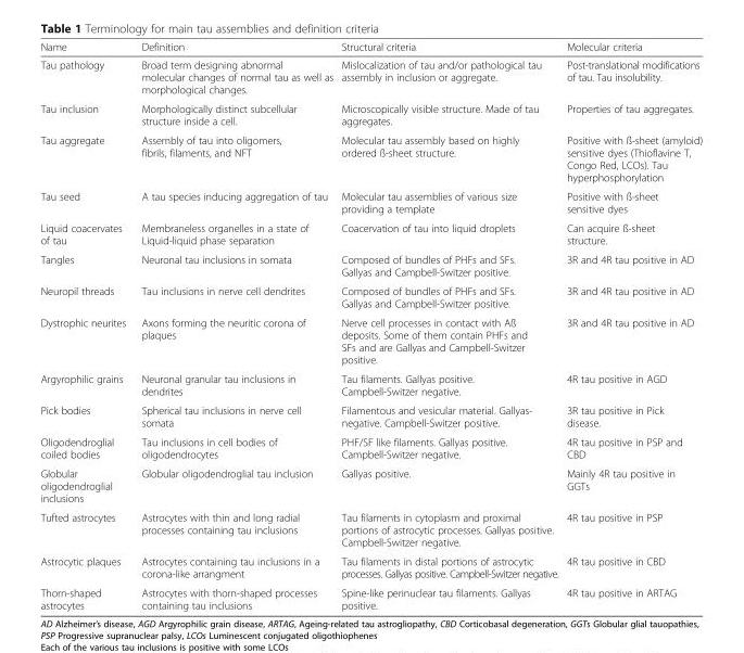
<table><thead><tr><td>Name</td><td>Definition</td><td>Structural criteria</td><td>Molecular criteria</td></tr></thead><tbody><tr><td>Tau pathology</td><td>Broad term designing abnormal molecular changes of normal tau as well as morphological changes.</td><td>Mislocalization of tau and/or pathological tau assembly in inclusion or aggregate.</td><td>Post-translational modifications of tau. Tau insolubility.</td></tr><tr><td>Tau inclusion</td><td>Morphologically distinct subcellular structure inside a cell.</td><td>Microscopically visible structure. Made of tau aggregates.</td><td>Properties of tau aggregates.</td></tr><tr><td>Tau aggregate</td><td>Assembly of tau into oligomers, fibrils, filaments, and NFT</td><td>Molecular tau assembly based on highly ordered ß-sheet structure.</td><td>Positive with ß-sheet (amyloid) sensitive dyes (Thioflavine T, Congo Red, LCOs). Tau hyperphosphorylation</td></tr><tr><td>Tau seed</td><td>A tau species inducing aggregation of tau</td><td>Molecular tau assemblies of various size providing a template</td><td>Positive with ß-sheet sensitive dyes</td></tr><tr><td>Liquid coacervates of tau</td><td>Membraneless organelles in a state of Liquid-liquid phase separation</td><td>Coacervation of tau into liquid droplets</td><td>Can acquire ß-sheet structure.</td></tr><tr><td>Tangles</td><td>Neuronal tau inclusions in somata</td><td>Composed of bundles of PHFs and SFs. Gallyas and Campbell-Switzer positive.</td><td>3R and 4R tau positive in AD</td></tr><tr><td>Neuropil threads</td><td>Tau inclusions in nerve cell dendrites</td><td>Composed of bundles of PHFs and SFs. Gallyas and Campbell-Switzer positive.</td><td>3R and 4R tau positive in AD</td></tr><tr><td>Dystrophic neurites</td><td>Axons forming the neuritic corona of plaques</td><td>Nerve cell processes in contact with Aß deposits. Some of them contain PHFs and SFs and are Gallyas and Campbell-Switzer positive.</td><td>3R and 4R tau positive in AD</td></tr><tr><td>Argyrophilic grains</td><td>Neuronal granular tau inclusions in dendrites</td><td>Tau filaments. Gallyas positive. Campbell-Switzer negative.</td><td>4R tau positive in AGD</td></tr><tr><td>Pick bodies</td><td>Spherical tau inclusions in nerve cell somata</td><td>Filamentous and vesicular material. Gallyas- negative. Campbell-Switzer positive.</td><td>3R tau positive in Pick disease.</td></tr><tr><td>Oligodendroglial coiled bodies</td><td>Tau inclusions in cell bodies of oligodendrocytes</td><td>PHF/SF like filaments. Gallyas positive. Campbell-Switzer negative.</td><td>4R tau positive in PSP and CBD</td></tr><tr><td>Globular oligodendroglial inclusions</td><td>Globular oligodendroglial tau inclusion</td><td>Gallyas positive.</td><td>Mainly 4R tau positive in GGTs</td></tr><tr><td>Tufted astrocytes</td><td>Astrocytes with thin and long radial processes containing tau inclusions</td><td>Tau filaments in cytoplasm and proximal portions of astrocytic processes. Gallyas positive. Campbell-Switzer negative.</td><td>4R tau positive in PSP</td></tr><tr><td>Astrocytic plaques</td><td>Astrocytes containing tau inclusions in a corona-like arrangment</td><td>Tau filaments in distal portions of astrocytic processes. Gallyas positive. Campbell-Switzer negative.</td><td>4R tau positive in CBD</td></tr><tr><td>Thorn-shaped astrocytes</td><td>Astrocytes with thorn-shaped processes containing tau inclusions</td><td>Spine-like perinuclear tau filaments. Gallyas positive.</td><td>4R tau positive in ARTAG</td></tr></tbody></table>